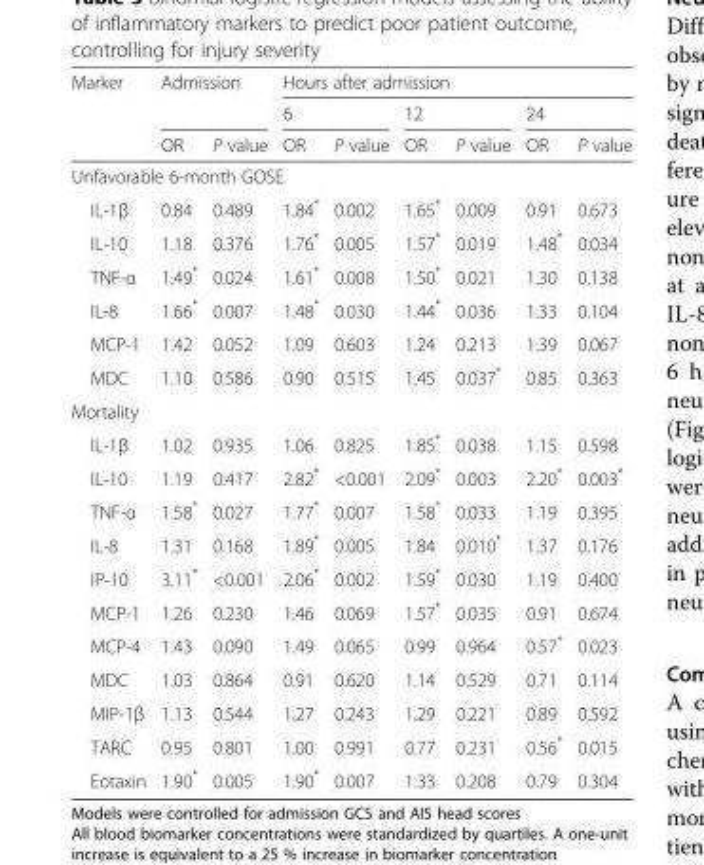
<table><thead><tr><td rowspan="3">Marker</td><td rowspan="2" colspan="2">Admission</td><td colspan="6">Hours after admission</td></tr><tr><td colspan="2">6</td><td colspan="2">12</td><td colspan="2">24</td></tr><tr><td>OR</td><td>P value</td><td>OR</td><td>P value</td><td>OR</td><td>P value</td><td>OR</td><td>P value</td></tr></thead><tbody><tr><td colspan="9">Unfavorable 6-month GOSE</td></tr><tr><td>IL-1β</td><td>0.84</td><td>0.489</td><td>1.84*</td><td>0.002</td><td>1.65*</td><td>0.009</td><td>0.91</td><td>0.673</td></tr><tr><td>IL-10</td><td>1.18</td><td>0.376</td><td>1.76*</td><td>0.005</td><td>1.57*</td><td>0.019</td><td>1.48*</td><td>0.034</td></tr><tr><td>TNF-α</td><td>1.49*</td><td>0.024</td><td>1.61*</td><td>0.008</td><td>1.50*</td><td>0.021</td><td>1.30</td><td>0.138</td></tr><tr><td>IL-8</td><td>1.66*</td><td>0.007</td><td>1.48*</td><td>0.030</td><td>1.44*</td><td>0.036</td><td>1.33</td><td>0.104</td></tr><tr><td>MCP-1</td><td>1.42</td><td>0.052</td><td>1.09</td><td>0.603</td><td>1.24</td><td>0.213</td><td>1.39</td><td>0.067</td></tr><tr><td>MDC</td><td>1.10</td><td>0.586</td><td>0.90</td><td>0.515</td><td>1.45</td><td>0.037*</td><td>0.85</td><td>0.363</td></tr><tr><td colspan="9">Mortality</td></tr><tr><td>IL-1β</td><td>1.02</td><td>0.935</td><td>1.06</td><td>0.825</td><td>1.85*</td><td>0.038</td><td>1.15</td><td>0.598</td></tr><tr><td>IL-10</td><td>1.19</td><td>0.417</td><td>2.82*</td><td>&lt;0.001</td><td>2.09*</td><td>0.003</td><td>2.20*</td><td>0.003*</td></tr><tr><td>TNF-α</td><td>1.58*</td><td>0.027</td><td>1.77*</td><td>0.007</td><td>1.58*</td><td>0.033</td><td>1.19</td><td>0.395</td></tr><tr><td>IL-8</td><td>1.31</td><td>0.168</td><td>1.89*</td><td>0.005</td><td>1.84</td><td>0.010*</td><td>1.37</td><td>0.176</td></tr><tr><td>IP-10</td><td>3.11*</td><td>&lt;0.001</td><td>2.06*</td><td>0.002</td><td>1.59*</td><td>0.030</td><td>1.19</td><td>0.400</td></tr><tr><td>MCP-1</td><td>1.26</td><td>0.230</td><td>1.46</td><td>0.069</td><td>1.57*</td><td>0.035</td><td>0.91</td><td>0.674</td></tr><tr><td>MCP-4</td><td>1.43</td><td>0.090</td><td>1.49</td><td>0.065</td><td>0.99</td><td>0.964</td><td>0.57*</td><td>0.023</td></tr><tr><td>MDC</td><td>1.03</td><td>0.864</td><td>0.91</td><td>0.620</td><td>1.14</td><td>0.529</td><td>0.71</td><td>0.114</td></tr><tr><td>MIP-1β</td><td>1.13</td><td>0.544</td><td>1.27</td><td>0.243</td><td>1.29</td><td>0.221</td><td>0.89</td><td>0.592</td></tr><tr><td>TARC</td><td>0.95</td><td>0.801</td><td>1.00</td><td>0.991</td><td>0.77</td><td>0.231</td><td>0.56*</td><td>0.015</td></tr><tr><td>Eotaxin</td><td>1.90*</td><td>0.005</td><td>1.90*</td><td>0.007</td><td>1.33</td><td>0.208</td><td>0.79</td><td>0.304</td></tr></tbody></table>